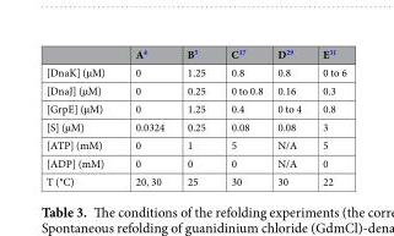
<table><thead><tr><td></td><td>A<sup>4</sup></td><td>B<sup>5</sup></td><td>C<sup>17</sup></td><td>D<sup>29</sup></td><td>E<sup>31</sup></td></tr></thead><tbody><tr><td>[DnaK] (µM)</td><td>0</td><td>1.25</td><td>0.8</td><td>0.8</td><td>0 to 6</td></tr><tr><td>[DnaJ] (µM)</td><td>0</td><td>0.25</td><td>0 to 0.8</td><td>0.16</td><td>0.3</td></tr><tr><td>[GrpE] (µM)</td><td>0</td><td>1.25</td><td>0.4</td><td>0 to 4</td><td>0.8</td></tr><tr><td>[S] (µM)</td><td>0.0324</td><td>0.25</td><td>0.08</td><td>0.08</td><td>3</td></tr><tr><td>[ATP] (mM)</td><td>0</td><td>1</td><td>5</td><td>N/A</td><td>5</td></tr><tr><td>[ADP] (mM)</td><td>0</td><td>0</td><td>0</td><td>N/A</td><td>0</td></tr><tr><td>T (°C)</td><td>20, 30</td><td>25</td><td>30</td><td>30</td><td>22</td></tr></tbody></table>